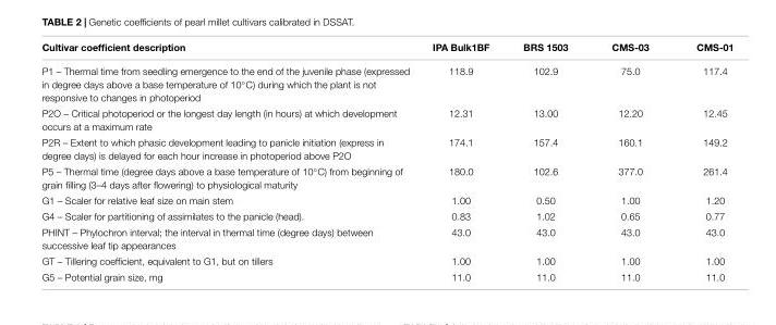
<table><thead><tr><td>Cultivar coefficient description</td><td>IPA Bulk1BF</td><td>BRS 1503</td><td>CMS-03</td><td>CMS-01</td></tr></thead><tbody><tr><td>P1 – Thermal time from seedling emergence to the end of the juvenile phase (expressed in degree days above a base temperature of 10◦C) during which the plant is not responsive to changes in photoperiod</td><td>118.9</td><td>102.9</td><td>75.0</td><td>117.4</td></tr><tr><td>P2O – Critical photoperiod or the longest day length (in hours) at which development occurs at a maximum rate</td><td>12.31</td><td>13.00</td><td>12.20</td><td>12.45</td></tr><tr><td>P2R – Extent to which phasic development leading to panicle initiation (express in degree days) is delayed for each hour increase in photoperiod above P2O</td><td>174.1</td><td>157.4</td><td>160.1</td><td>149.2</td></tr><tr><td>P5 – Thermal time (degree days above a base temperature of 10◦C) from beginning of grain filling (3–4 days after flowering) to physiological maturity</td><td>180.0</td><td>102.6</td><td>377.0</td><td>261.4</td></tr><tr><td>G1 – Scaler for relative leaf size on main stem</td><td>1.00</td><td>0.50</td><td>1.00</td><td>1.20</td></tr><tr><td>G4 – Scaler for partitioning of assimilates to the panicle (head).</td><td>0.83</td><td>1.02</td><td>0.65</td><td>0.77</td></tr><tr><td>PHINT – Phylochron interval; the interval in thermal time (degree days) between successive leaf tip appearances</td><td>43.0</td><td>43.0</td><td>43.0</td><td>43.0</td></tr><tr><td>GT – Tillering coefficient, equivalent to G1, but on tillers</td><td>1.00</td><td>1.00</td><td>1.00</td><td>1.00</td></tr><tr><td>G5 – Potential grain size, mg</td><td>11.0</td><td>11.0</td><td>11.0</td><td>11.0</td></tr></tbody></table>